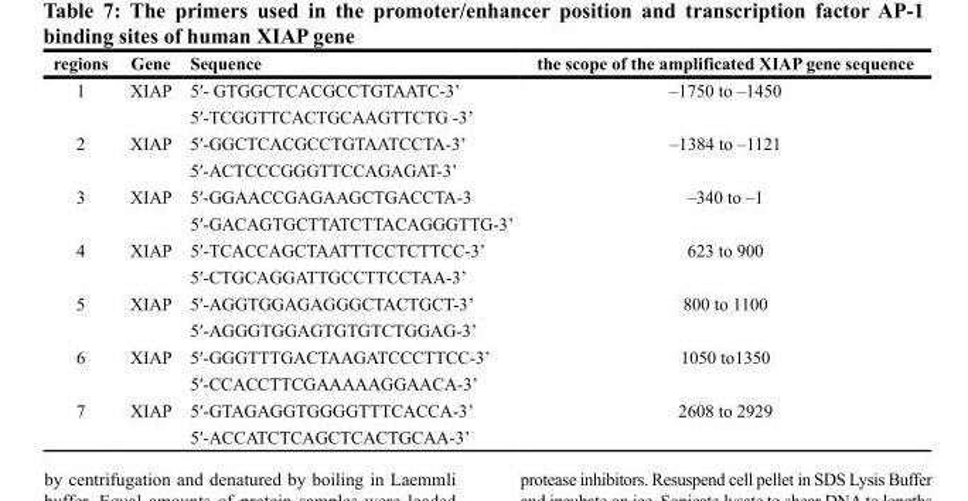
<table><thead><tr><td>regions</td><td>Gene</td><td>Sequence</td><td>the scope of the amplificated XIAP gene sequence</td></tr></thead><tbody><tr><td>1</td><td>XIAP</td><td>5′- GTGGCTCACGCCTGTAATC-3’ 5′-TCGGTTCACTGCAAGTTCTG -3’</td><td>–1750 to –1450</td></tr><tr><td>2</td><td>XIAP</td><td>5′-GGCTCACGCCTGTAATCCTA-3’ 5′-ACTCCCGGGTTCCAGAGAT-3’</td><td>–1384 to –1121</td></tr><tr><td>3</td><td>XIAP</td><td>5′-GGAACCGAGAAGCTGACCTA-3 5′-GACAGTGCTTATCTTACAGGGTTG-3’</td><td>–340 to –1</td></tr><tr><td>4</td><td>XIAP</td><td>5′-TCACCAGCTAATTTCCTCTTCC-3’ 5′-CTGCAGGATTGCCTTCCTAA-3’</td><td>623 to 900</td></tr><tr><td>5</td><td>XIAP</td><td>5′-AGGTGGAGAGGGCTACTGCT-3’ 5′-AGGGTGGAGTGTGTCTGGAG-3’</td><td>800 to 1100</td></tr><tr><td>6</td><td>XIAP</td><td>5′-GGGTTTGACTAAGATCCCTTCC-3’ 5′-CCACCTTCGAAAAAGGAACA-3’</td><td>1050 to1350</td></tr><tr><td>7</td><td>XIAP</td><td>5′-GTAGAGGTGGGGTTTCACCA-3’ 5′-ACCATCTCAGCTCACTGCAA-3’</td><td>2608 to 2929</td></tr></tbody></table>